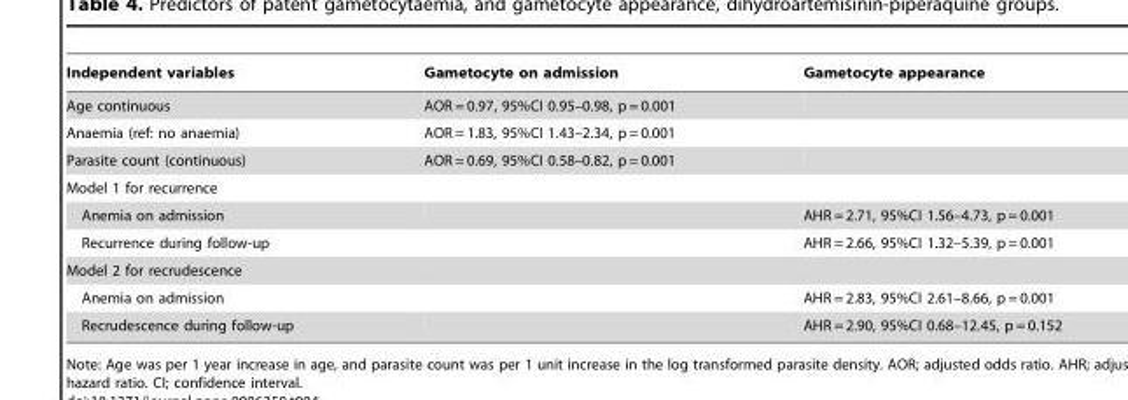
<table><thead><tr><td>Independent variables</td><td>Gametocyte on admission</td><td>Gametocyte appearance</td></tr></thead><tbody><tr><td>Age continuous</td><td>AOR = 0.97, 95%CI 0.95–0.98, p = 0.001</td><td></td></tr><tr><td>Anaemia (ref: no anaemia)</td><td>AOR = 1.83, 95%CI 1.43–2.34, p = 0.001</td><td></td></tr><tr><td>Parasite count (continuous)</td><td>AOR = 0.69, 95%CI 0.58–0.82, p = 0.001</td><td></td></tr><tr><td colspan="3">Model 1 for recurrence</td></tr><tr><td>Anemia on admission</td><td></td><td>AHR = 2.71, 95%CI 1.56–4.73, p = 0.001</td></tr><tr><td>Recurrence during follow-up</td><td></td><td>AHR = 2.66, 95%CI 1.32–5.39, p = 0.001</td></tr><tr><td colspan="3">Model 2 for recrudescence</td></tr><tr><td>Anemia on admission</td><td></td><td>AHR = 2.83, 95%CI 2.61–8.66, p = 0.001</td></tr><tr><td>Recrudescence during follow-up</td><td></td><td>AHR = 2.90, 95%CI 0.68–12.45, p = 0.152</td></tr></tbody></table>